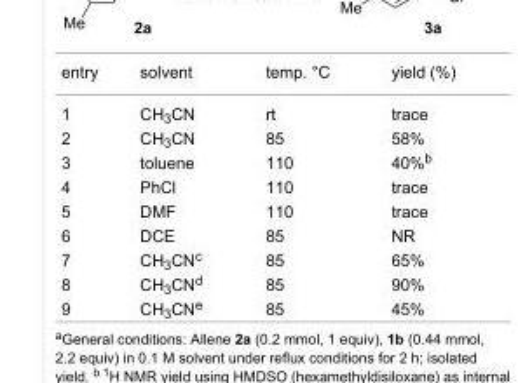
<table><tbody><tr><td>entry</td><td>solvent</td><td>temp. °C</td><td>yield (%)</td></tr><tr><td>1</td><td>CH<sub>3</sub>CN</td><td>rt</td><td>trace</td></tr><tr><td>2</td><td>CH<sub>3</sub>CN</td><td>85</td><td>58%</td></tr><tr><td>3</td><td>toluene</td><td>110</td><td>40%<sup>b</sup></td></tr><tr><td>4</td><td>PhCl</td><td>110</td><td>trace</td></tr><tr><td>5</td><td>DMF</td><td>110</td><td>trace</td></tr><tr><td>6</td><td>DCE</td><td>85</td><td>NR</td></tr><tr><td>7</td><td>CH<sub>3</sub>CN<sup>c</sup></td><td>85</td><td>65%</td></tr><tr><td>8</td><td>CH<sub>3</sub>CN<sup>d</sup></td><td>85</td><td>90%</td></tr><tr><td>9</td><td>CH<sub>3</sub>CN<sup>e</sup></td><td>85</td><td>45%</td></tr></tbody></table>